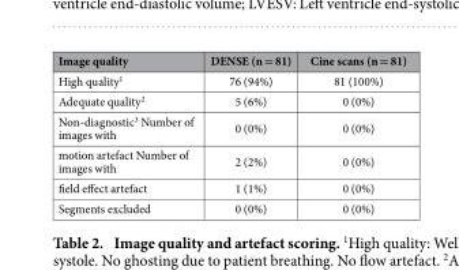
<table><thead><tr><td>Image quality</td><td>DENSE (n = 81)</td><td>Cine scans (n = 81)</td></tr></thead><tbody><tr><td>High quality<sup>1</sup></td><td>76 (94%)</td><td>81 (100%)</td></tr><tr><td>Adequate quality<sup>2</sup></td><td>5 (6%)</td><td>0 (0%)</td></tr><tr><td>Non-diagnostic<sup>3</sup> Number of images with</td><td>0 (0%)</td><td>0 (0%)</td></tr><tr><td>motion artefact Number of images with</td><td>2 (2%)</td><td>0 (0%)</td></tr><tr><td>field effect artefact</td><td>1 (1%)</td><td>0 (0%)</td></tr><tr><td>Segments excluded</td><td>0 (0%)</td><td>0 (0%)</td></tr></tbody></table>